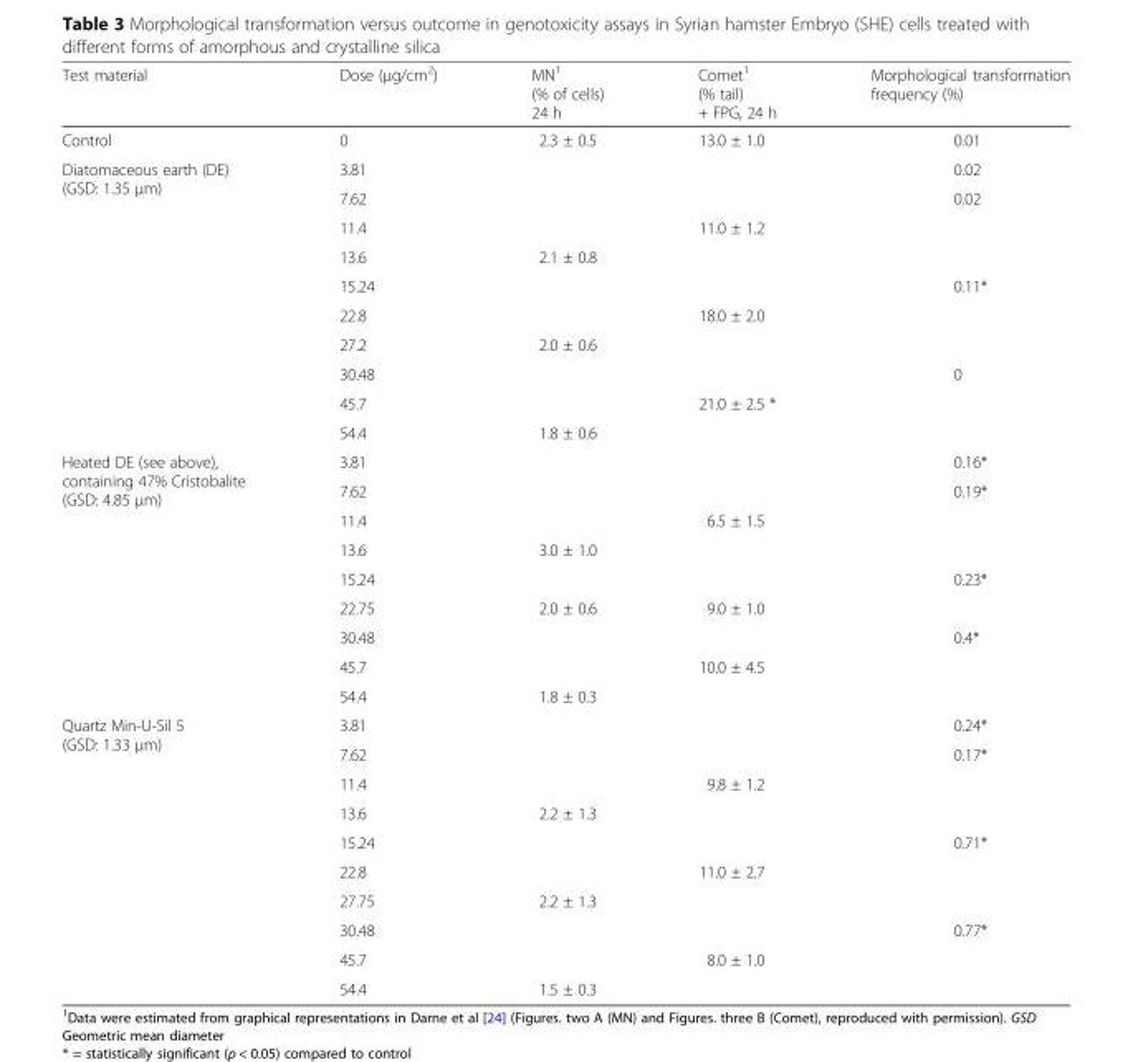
<table><thead><tr><td>Test material</td><td>Dose (μg/cm<sup>2</sup>)</td><td>MN<sup>1</sup> (% of cells) 24 h</td><td>Comet<sup>1</sup> (% tail) + FPG, 24 h</td><td>Morphological transformation frequency (%)</td></tr></thead><tbody><tr><td>Control</td><td>0</td><td>2.3 ± 0.5</td><td>13.0 ± 1.0</td><td>0.01</td></tr><tr><td rowspan="10">Diatomaceous earth (DE) (GSD: 1.35 μm)</td><td>3.81</td><td></td><td></td><td>0.02</td></tr><tr><td>7.62</td><td></td><td></td><td>0.02</td></tr><tr><td>11.4</td><td></td><td>11.0 ± 1.2</td><td></td></tr><tr><td>13.6</td><td>2.1 ± 0.8</td><td></td><td></td></tr><tr><td>15.24</td><td></td><td></td><td>0.11*</td></tr><tr><td>22.8</td><td></td><td>18.0 ± 2.0</td><td></td></tr><tr><td>27.2</td><td>2.0 ± 0.6</td><td></td><td></td></tr><tr><td>30.48</td><td></td><td></td><td>0</td></tr><tr><td>45.7</td><td></td><td>21.0 ± 2.5 *</td><td></td></tr><tr><td>54.4</td><td>1.8 ± 0.6</td><td></td><td></td></tr><tr><td rowspan="9">Heated DE (see above), containing 47% Cristobalite (GSD: 4.85 μm)</td><td>3.81</td><td></td><td></td><td>0.16*</td></tr><tr><td>7.62</td><td></td><td></td><td>0.19*</td></tr><tr><td>11.4</td><td></td><td>6.5 ± 1.5</td><td></td></tr><tr><td>13.6</td><td>3.0 ± 1.0</td><td></td><td></td></tr><tr><td>15.24</td><td></td><td></td><td>0.23*</td></tr><tr><td>22.75</td><td>2.0 ± 0.6</td><td>9.0 ± 1.0</td><td></td></tr><tr><td>30.48</td><td></td><td></td><td>0.4*</td></tr><tr><td>45.7</td><td></td><td>10.0 ± 4.5</td><td></td></tr><tr><td>54.4</td><td>1.8 ± 0.3</td><td></td><td></td></tr><tr><td rowspan="10">Quartz Min-U-Sil 5 (GSD: 1.33 μm)</td><td>3.81</td><td></td><td></td><td>0.24*</td></tr><tr><td>7.62</td><td></td><td></td><td>0.17*</td></tr><tr><td>11.4</td><td></td><td>9.8 ± 1.2</td><td></td></tr><tr><td>13.6</td><td>2.2 ± 1.3</td><td></td><td></td></tr><tr><td>15.24</td><td></td><td></td><td>0.71*</td></tr><tr><td>22.8</td><td></td><td>11.0 ± 2.7</td><td></td></tr><tr><td>27.75</td><td>2.2 ± 1.3</td><td></td><td></td></tr><tr><td>30.48</td><td></td><td></td><td>0.77*</td></tr><tr><td>45.7</td><td></td><td>8.0 ± 1.0</td><td></td></tr><tr><td>54.4</td><td>1.5 ± 0.3</td><td></td><td></td></tr></tbody></table>